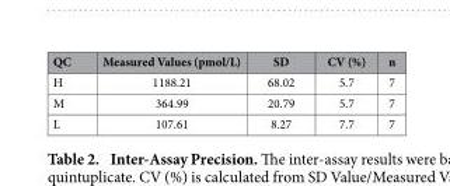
<table><thead><tr><td>QC</td><td>Measured Values (pmol/L)</td><td>SD</td><td>CV (%)</td><td>n</td></tr></thead><tbody><tr><td>H</td><td>1188.21</td><td>68.02</td><td>5.7</td><td>7</td></tr><tr><td>M</td><td>364.99</td><td>20.79</td><td>5.7</td><td>7</td></tr><tr><td>L</td><td>107.61</td><td>8.27</td><td>7.7</td><td>7</td></tr></tbody></table>